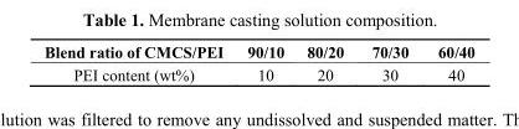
<table><thead><tr><td>Blend ratio of CMCS/PEI</td><td>90/10</td><td>80/20</td><td>70/30</td><td>60/40</td></tr></thead><tbody><tr><td>PEI content (wt%)</td><td>10</td><td>20</td><td>30</td><td>40</td></tr></tbody></table>